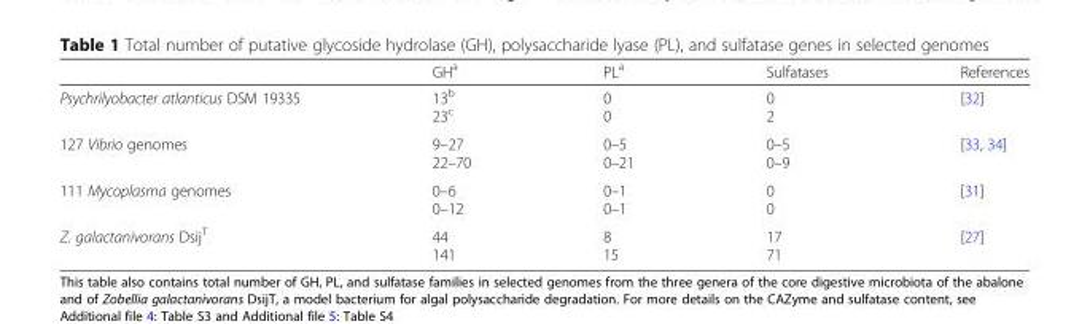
<table><thead><tr><td></td><td>GH<sup>a</sup></td><td>PL<sup>a</sup></td><td>Sulfatases</td><td>References</td></tr></thead><tbody><tr><td>Psychrilyobacter atlanticus DSM 19335</td><td>13<sup>b</sup> 23<sup>c</sup></td><td>0 0</td><td>0 2</td><td>[32]</td></tr><tr><td>127 Vibrio genomes</td><td>9–27 22–70</td><td>0–5 0–21</td><td>0–5 0–9</td><td>[33, 34]</td></tr><tr><td>111 Mycoplasma genomes</td><td>0–6 0–12</td><td>0–1 0–1</td><td>0 0</td><td>[31]</td></tr><tr><td>Z. galactanivorans Dsij<sup>T</sup></td><td>44 141</td><td>8 15</td><td>17 71</td><td>[27]</td></tr></tbody></table>